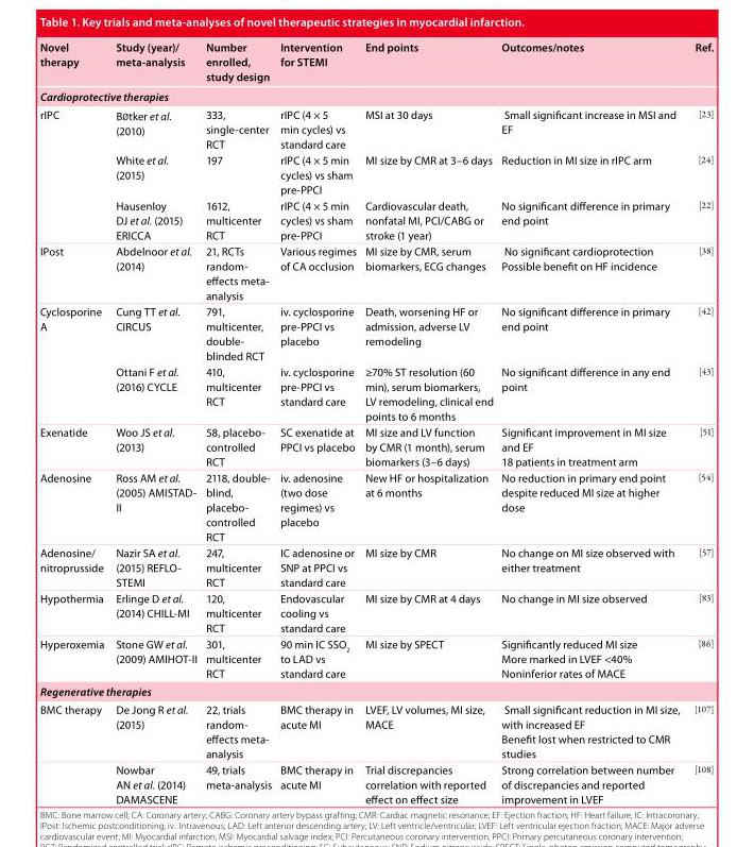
<table><thead><tr><td>Novel therapy</td><td>Study (year)/ meta-analysis</td><td>Number enrolled, study design</td><td>Intervention for STEMI</td><td>End points</td><td>Outcomes/notes</td><td>Ref.</td></tr></thead><tbody><tr><td colspan="7">Cardioprotective therapies</td></tr><tr><td rowspan="3">rIPC</td><td>Bøtker et al. (2010)</td><td>333, single-center RCT</td><td>rIPC (4 × 5 min cycles) vs standard care</td><td>MSI at 30 days</td><td>Small significant increase in MSI and EF</td><td>[23]</td></tr><tr><td>White et al. (2015)</td><td>197</td><td>rIPC (4 × 5 min cycles) vs sham pre-PPCI</td><td>MI size by CMR at 3–6 days</td><td>Reduction in MI size in rIPC arm</td><td>[24]</td></tr><tr><td>Hausenloy DJ et al. (2015) ERICCA</td><td>1612, multicenter RCT</td><td>rIPC (4 × 5 min cycles) vs sham pre-PPCI</td><td>Cardiovascular death, nonfatal MI, PCI/CABG or stroke (1 year)</td><td>No significant difference in primary end point</td><td>[22]</td></tr><tr><td>IPost</td><td>Abdelnoor et al. (2014)</td><td>21, RCTs random- effects meta- analysis</td><td>Various regimes of CA occlusion</td><td>MI size by CMR, serum biomarkers, ECG changes</td><td>No significant cardioprotection Possible benefit on HF incidence</td><td>[38]</td></tr><tr><td rowspan="2">Cyclosporine A</td><td>Cung TT et al. CIRCUS</td><td>791, multicenter, double- blinded RCT</td><td>iv. cyclosporine pre-PPCI vs placebo</td><td>Death, worsening HF or admission, adverse LV remodeling</td><td>No significant difference in primary end point</td><td>[42]</td></tr><tr><td>Ottani F et al. (2016) CYCLE</td><td>410, multicenter RCT</td><td>iv. cyclosporine pre-PPCI vs standard care</td><td>≥70% ST resolution (60 min), serum biomarkers, LV remodeling, clinical end points to 6 months</td><td>No significant difference in any end point</td><td>[43]</td></tr><tr><td>Exenatide</td><td>Woo JS et al. (2013)</td><td>58, placebo- controlled RCT</td><td>SC exenatide at PPCI vs placebo</td><td>MI size and LV function by CMR (1 month), serum biomarkers (3–6 days)</td><td>Significant improvement in MI size and EF 18 patients in treatment arm</td><td>[51]</td></tr><tr><td>Adenosine</td><td>Ross AM et al. (2005) AMISTAD- II</td><td>2118, double- blind, placebo- controlled RCT</td><td>iv. adenosine (two dose regimes) vs placebo</td><td>New HF or hospitalization at 6 months</td><td>No reduction in primary end point despite reduced MI size at higher dose</td><td>[54]</td></tr><tr><td>Adenosine/ nitroprusside</td><td>Nazir SA et al. (2015) REFLO- STEMI</td><td>247, multicenter RCT</td><td>IC adenosine or SNP at PPCI vs standard care</td><td>MI size by CMR</td><td>No change on MI size observed with either treatment</td><td>[57]</td></tr><tr><td>Hypothermia</td><td>Erlinge D et al. (2014) CHILL-MI</td><td>120, multicenter RCT</td><td>Endovascular cooling vs standard care</td><td>MI size by CMR at 4 days</td><td>No change in MI size observed</td><td>[83]</td></tr><tr><td>Hyperoxemia</td><td>Stone GW et al. (2009) AMIHOT-II</td><td>301, multicenter RCT</td><td>90 min IC SSO<sub>2</sub> to LAD vs standard care</td><td>MI size by SPECT</td><td>Significantly reduced MI size More marked in LVEF &lt;40% Noninferior rates of MACE</td><td>[86]</td></tr><tr><td colspan="7">Regenerative therapies</td></tr><tr><td rowspan="2">BMC therapy</td><td>De Jong R et al. (2015)</td><td>22, trials random- effects meta- analysis</td><td>BMC therapy in acute MI</td><td>LVEF, LV volumes, MI size, MACE</td><td>Small significant reduction in MI size, with increased EF Benefit lost when restricted to CMR studies</td><td>[107]</td></tr><tr><td>Nowbar AN et al. (2014) DAMASCENE</td><td>49, trials meta-analysis</td><td>BMC therapy in acute MI</td><td>Trial discrepancies correlation with reported effect on effect size</td><td>Strong correlation between number of discrepancies and reported improvement in LVEF</td><td>[108]</td></tr></tbody></table>